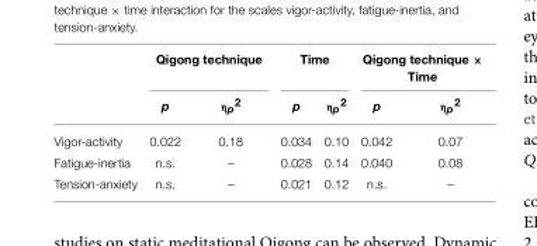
<table><thead><tr><td rowspan="2"></td><td colspan="2">Qigong technique</td><td colspan="2">Time</td><td colspan="2">Qigong technique × Time</td></tr><tr><td>p</td><td>ηp2</td><td>p</td><td>ηp2</td><td>p</td><td>ηp2</td></tr></thead><tbody><tr><td>Vigor-activity</td><td>0.022</td><td>0.18</td><td>0.034</td><td>0.10</td><td>0.042</td><td>0.07</td></tr><tr><td>Fatigue-inertia</td><td>n.s.</td><td>–</td><td>0.028</td><td>0.14</td><td>0.040</td><td>0.08</td></tr><tr><td>Tension-anxiety</td><td>n.s.</td><td>–</td><td>0.021</td><td>0.12</td><td>n.s.</td><td>–</td></tr></tbody></table>